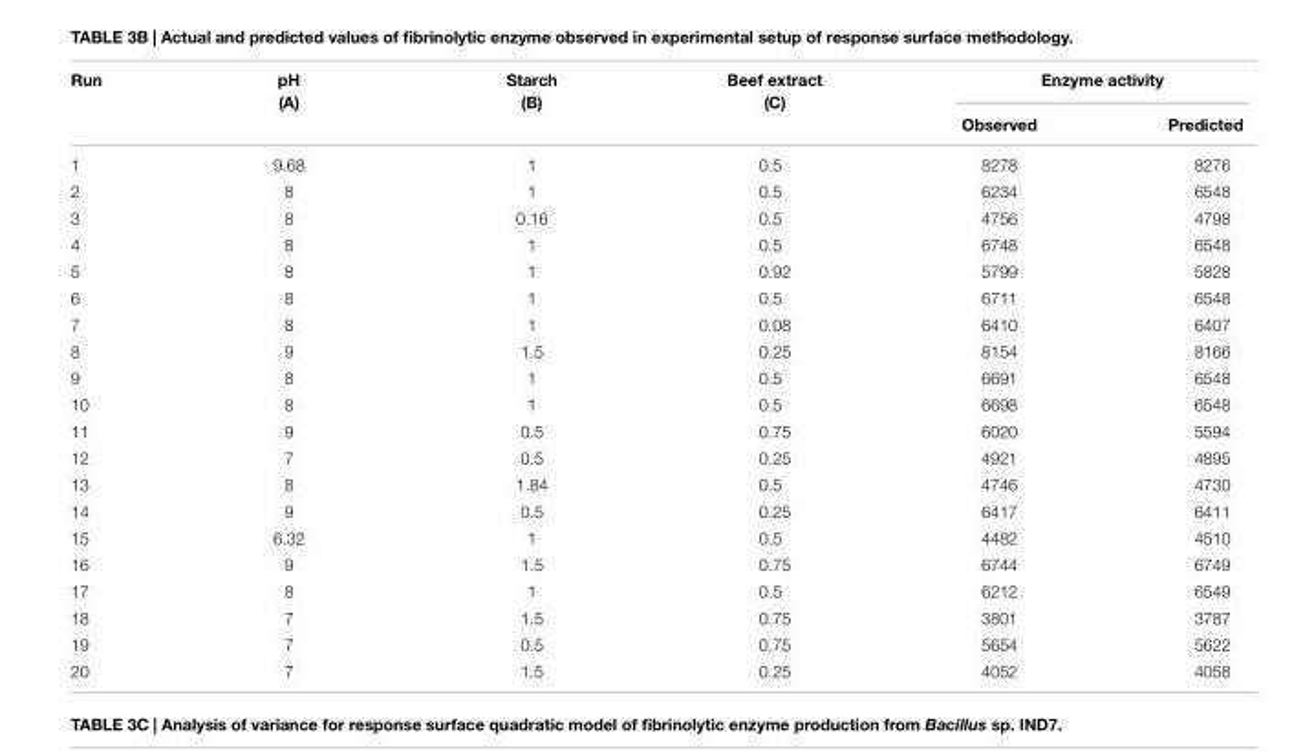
<table><thead><tr><td rowspan="2">Run</td><td rowspan="2">pH (A)</td><td rowspan="2">Starch (B)</td><td rowspan="2">Beef extract (C)</td><td colspan="2">Enzyme activity</td></tr><tr><td>Observed</td><td>Predicted</td></tr></thead><tbody><tr><td>1</td><td>9.68</td><td>1</td><td>0.5</td><td>8278</td><td>8276</td></tr><tr><td>2</td><td>8</td><td>1</td><td>0.5</td><td>6234</td><td>6548</td></tr><tr><td>3</td><td>8</td><td>0.16</td><td>0.5</td><td>4756</td><td>4798</td></tr><tr><td>4</td><td>8</td><td>1</td><td>0.5</td><td>6748</td><td>6548</td></tr><tr><td>5</td><td>8</td><td>1</td><td>0.92</td><td>5799</td><td>5828</td></tr><tr><td>6</td><td>8</td><td>1</td><td>0.5</td><td>6711</td><td>6548</td></tr><tr><td>7</td><td>8</td><td>1</td><td>0.08</td><td>6410</td><td>6407</td></tr><tr><td>8</td><td>9</td><td>1.5</td><td>0.25</td><td>8154</td><td>8166</td></tr><tr><td>9</td><td>8</td><td>1</td><td>0.5</td><td>6691</td><td>6548</td></tr><tr><td>10</td><td>8</td><td>1</td><td>0.5</td><td>6698</td><td>6548</td></tr><tr><td>11</td><td>9</td><td>0.5</td><td>0.75</td><td>6020</td><td>5594</td></tr><tr><td>12</td><td>7</td><td>0.5</td><td>0.25</td><td>4921</td><td>4895</td></tr><tr><td>13</td><td>8</td><td>1.84</td><td>0.5</td><td>4746</td><td>4730</td></tr><tr><td>14</td><td>9</td><td>0.5</td><td>0.25</td><td>6417</td><td>6411</td></tr><tr><td>15</td><td>6.32</td><td>1</td><td>0.5</td><td>4482</td><td>4510</td></tr><tr><td>16</td><td>9</td><td>1.5</td><td>0.75</td><td>6744</td><td>6749</td></tr><tr><td>17</td><td>8</td><td>1</td><td>0.5</td><td>6212</td><td>6549</td></tr><tr><td>18</td><td>7</td><td>1.5</td><td>0.75</td><td>3801</td><td>3787</td></tr><tr><td>19</td><td>7</td><td>0.5</td><td>0.75</td><td>5654</td><td>5622</td></tr><tr><td>20</td><td>7</td><td>1.5</td><td>0.25</td><td>4052</td><td>4058</td></tr></tbody></table>